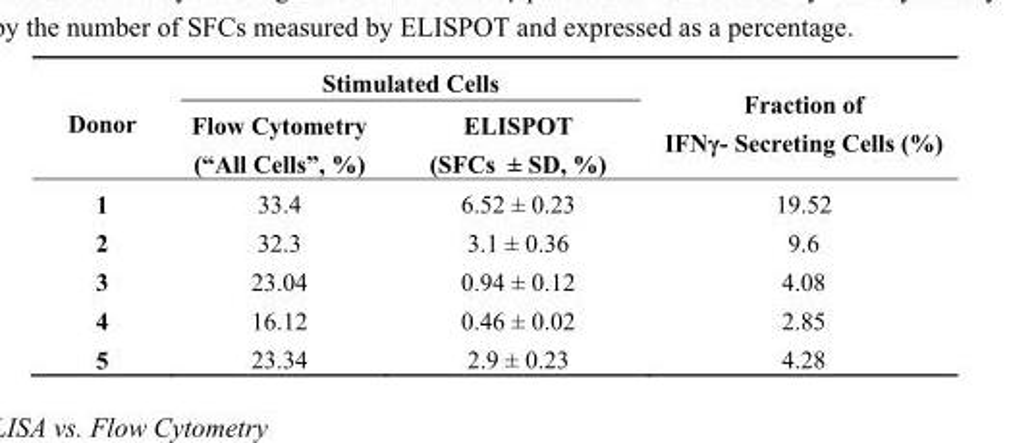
<table><thead><tr><td rowspan="2">Donor</td><td colspan="2">Stimulated Cells</td><td rowspan="2">Fraction of IFNγ- Secreting Cells (%)</td></tr><tr><td>Flow Cytometry (“All Cells”, %)</td><td>ELISPOT (SFCs ± SD, %)</td></tr></thead><tbody><tr><td>1</td><td>33.4</td><td>6.52 ± 0.23</td><td>19.52</td></tr><tr><td>2</td><td>32.3</td><td>3.1 ± 0.36</td><td>9.6</td></tr><tr><td>3</td><td>23.04</td><td>0.94 ± 0.12</td><td>4.08</td></tr><tr><td>4</td><td>16.12</td><td>0.46 ± 0.02</td><td>2.85</td></tr><tr><td>5</td><td>23.34</td><td>2.9 ± 0.23</td><td>4.28</td></tr></tbody></table>